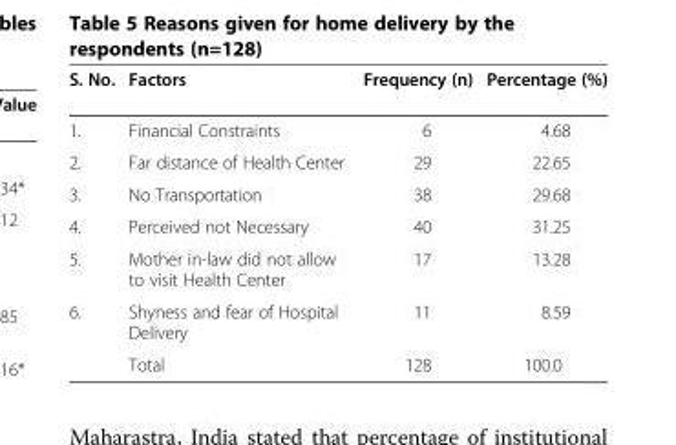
<table><thead><tr><td>S. No.</td><td>Factors</td><td>Frequency (n)</td><td>Percentage (%)</td></tr></thead><tbody><tr><td>1.</td><td>Financial Constraints</td><td>6</td><td>4.68</td></tr><tr><td>2.</td><td>Far distance of Health Center</td><td>29</td><td>22.65</td></tr><tr><td>3.</td><td>No Transportation</td><td>38</td><td>29.68</td></tr><tr><td>4.</td><td>Perceived not Necessary</td><td>40</td><td>31.25</td></tr><tr><td>5.</td><td>Mother in-law did not allow to visit Health Center</td><td>17</td><td>13.28</td></tr><tr><td rowspan="2">6.</td><td>Shyness and fear of Hospital Delivery</td><td>11</td><td>8.59</td></tr><tr><td>Total</td><td>128</td><td>100.0</td></tr></tbody></table>